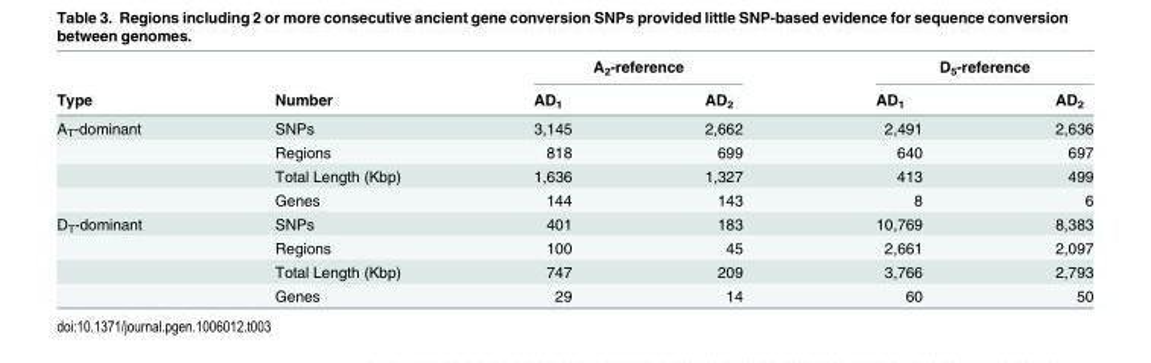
<table><thead><tr><td rowspan="2">Type</td><td rowspan="2">Number</td><td colspan="2">A<sub>2</sub>-reference</td><td colspan="2">D<sub>5</sub>-reference</td></tr><tr><td>AD<sub>1</sub></td><td>AD<sub>2</sub></td><td>AD<sub>1</sub></td><td>AD<sub>2</sub></td></tr></thead><tbody><tr><td rowspan="4">A<sub>T</sub>-dominant</td><td>SNPs</td><td>3,145</td><td>2,662</td><td>2,491</td><td>2,636</td></tr><tr><td>Regions</td><td>818</td><td>699</td><td>640</td><td>697</td></tr><tr><td>Total Length (Kbp)</td><td>1,636</td><td>1,327</td><td>413</td><td>499</td></tr><tr><td>Genes</td><td>144</td><td>143</td><td>8</td><td>6</td></tr><tr><td rowspan="4">D<sub>T</sub>-dominant</td><td>SNPs</td><td>401</td><td>183</td><td>10,769</td><td>8,383</td></tr><tr><td>Regions</td><td>100</td><td>45</td><td>2,661</td><td>2,097</td></tr><tr><td>Total Length (Kbp)</td><td>747</td><td>209</td><td>3,766</td><td>2,793</td></tr><tr><td>Genes</td><td>29</td><td>14</td><td>60</td><td>50</td></tr></tbody></table>